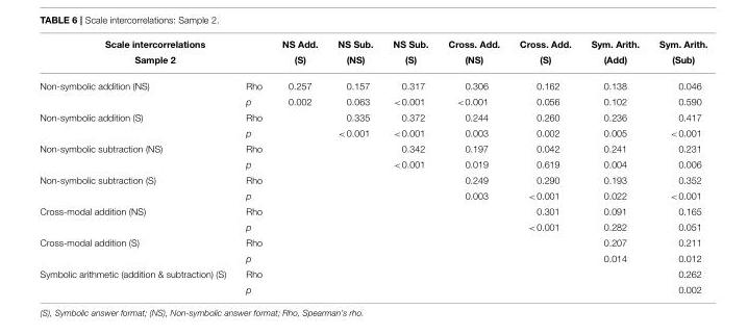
<table><thead><tr><td rowspan="2" colspan="2">Scale intercorrelations Sample 2</td><td rowspan="3">NS Add. (S) 0.257</td><td rowspan="3">NS Sub. (NS) 0.157</td><td rowspan="3">NS Sub. (S) 0.317</td><td rowspan="3">Cross. Add. (NS) 0.306</td><td rowspan="3">Cross. Add. (S) 0.162</td><td rowspan="3">Sym. Arith. (Add) 0.138</td><td rowspan="3">Sym. Arith. (Sub) 0.046</td></tr><tr></tr><tr><td>Non-symbolic addition (NS)</td><td>Rho</td></tr></thead><tbody><tr><td></td><td>p</td><td>0.002</td><td>0.063</td><td>&lt;0.001</td><td>&lt;0.001</td><td>0.056</td><td>0.102</td><td>0.590</td></tr><tr><td rowspan="2">Non-symbolic addition (S)</td><td>Rho</td><td></td><td>0.335</td><td>0.372</td><td>0.244</td><td>0.260</td><td>0.236</td><td>0.417</td></tr><tr><td>p</td><td></td><td>&lt;0.001</td><td>&lt;0.001</td><td>0.003</td><td>0.002</td><td>0.005</td><td>&lt;0.001</td></tr><tr><td rowspan="2">Non-symbolic subtraction (NS)</td><td>Rho</td><td></td><td></td><td>0.342</td><td>0.197</td><td>0.042</td><td>0.241</td><td>0.231</td></tr><tr><td>p</td><td></td><td></td><td>&lt;0.001</td><td>0.019</td><td>0.619</td><td>0.004</td><td>0.006</td></tr><tr><td rowspan="2">Non-symbolic subtraction (S)</td><td>Rho</td><td></td><td></td><td></td><td>0.249</td><td>0.290</td><td>0.193</td><td>0.352</td></tr><tr><td>p</td><td></td><td></td><td></td><td>0.003</td><td>&lt;0.001</td><td>0.022</td><td>&lt;0.001</td></tr><tr><td rowspan="2">Cross-modal addition (NS)</td><td>Rho</td><td></td><td></td><td></td><td></td><td>0.301</td><td>0.091</td><td>0.165</td></tr><tr><td>p</td><td></td><td></td><td></td><td></td><td>&lt;0.001</td><td>0.282</td><td>0.051</td></tr><tr><td rowspan="2">Cross-modal addition (S)</td><td>Rho</td><td></td><td></td><td></td><td></td><td></td><td>0.207</td><td>0.211</td></tr><tr><td>p</td><td></td><td></td><td></td><td></td><td></td><td>0.014</td><td>0.012</td></tr><tr><td rowspan="2">Symbolic arithmetic (addition &amp; subtraction) (S)</td><td>Rho</td><td></td><td></td><td></td><td></td><td></td><td></td><td>0.262</td></tr><tr><td>p</td><td></td><td></td><td></td><td></td><td></td><td></td><td>0.002</td></tr></tbody></table>